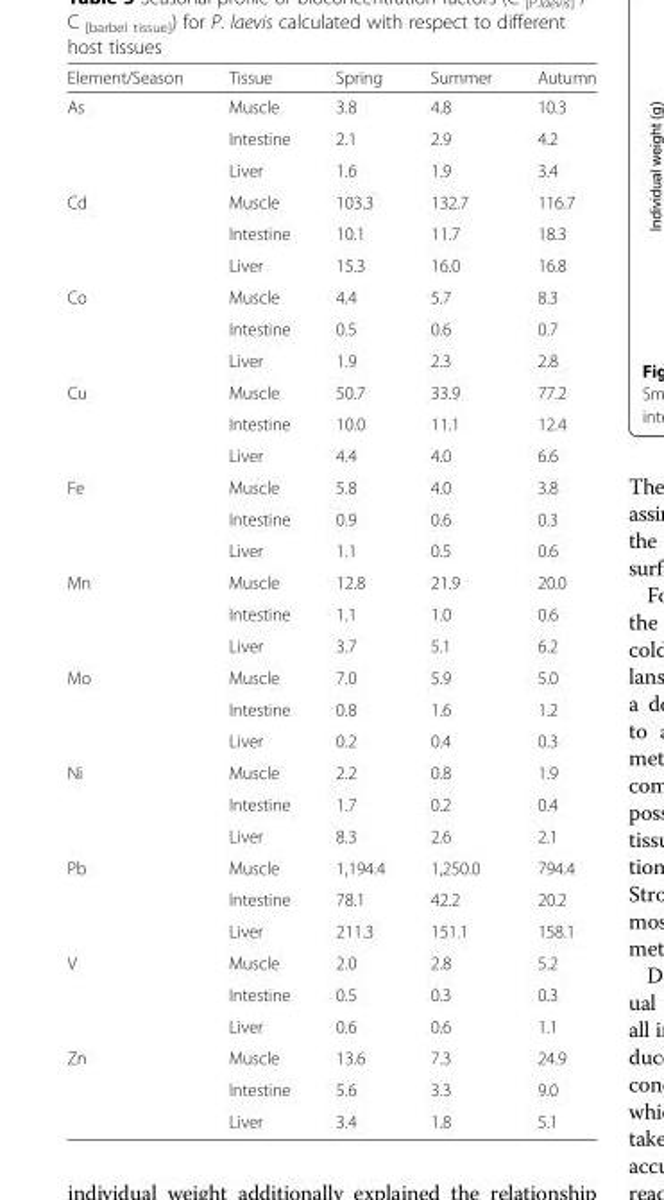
<table><thead><tr><td>Element/Season</td><td>Tissue</td><td>Spring</td><td>Summer</td><td>Autumn</td></tr></thead><tbody><tr><td rowspan="3">As</td><td>Muscle</td><td>3.8</td><td>4.8</td><td>10.3</td></tr><tr><td>Intestine</td><td>2.1</td><td>2.9</td><td>4.2</td></tr><tr><td>Liver</td><td>1.6</td><td>1.9</td><td>3.4</td></tr><tr><td rowspan="3">Cd</td><td>Muscle</td><td>103.3</td><td>132.7</td><td>116.7</td></tr><tr><td>Intestine</td><td>10.1</td><td>11.7</td><td>18.3</td></tr><tr><td>Liver</td><td>15.3</td><td>16.0</td><td>16.8</td></tr><tr><td rowspan="3">Co</td><td>Muscle</td><td>4.4</td><td>5.7</td><td>8.3</td></tr><tr><td>Intestine</td><td>0.5</td><td>0.6</td><td>0.7</td></tr><tr><td>Liver</td><td>1.9</td><td>2.3</td><td>2.8</td></tr><tr><td rowspan="3">Cu</td><td>Muscle</td><td>50.7</td><td>33.9</td><td>77.2</td></tr><tr><td>Intestine</td><td>10.0</td><td>11.1</td><td>12.4</td></tr><tr><td>Liver</td><td>4.4</td><td>4.0</td><td>6.6</td></tr><tr><td rowspan="3">Fe</td><td>Muscle</td><td>5.8</td><td>4.0</td><td>3.8</td></tr><tr><td>Intestine</td><td>0.9</td><td>0.6</td><td>0.3</td></tr><tr><td>Liver</td><td>1.1</td><td>0.5</td><td>0.6</td></tr><tr><td rowspan="3">Mn</td><td>Muscle</td><td>12.8</td><td>21.9</td><td>20.0</td></tr><tr><td>Intestine</td><td>1.1</td><td>1.0</td><td>0.6</td></tr><tr><td>Liver</td><td>3.7</td><td>5.1</td><td>6.2</td></tr><tr><td rowspan="3">Mo</td><td>Muscle</td><td>7.0</td><td>5.9</td><td>5.0</td></tr><tr><td>Intestine</td><td>0.8</td><td>1.6</td><td>1.2</td></tr><tr><td>Liver</td><td>0.2</td><td>0.4</td><td>0.3</td></tr><tr><td rowspan="3">Ni</td><td>Muscle</td><td>2.2</td><td>0.8</td><td>1.9</td></tr><tr><td>Intestine</td><td>1.7</td><td>0.2</td><td>0.4</td></tr><tr><td>Liver</td><td>8.3</td><td>2.6</td><td>2.1</td></tr><tr><td rowspan="3">Pb</td><td>Muscle</td><td>1,194.4</td><td>1,250.0</td><td>794.4</td></tr><tr><td>Intestine</td><td>78.1</td><td>42.2</td><td>20.2</td></tr><tr><td>Liver</td><td>211.3</td><td>151.1</td><td>158.1</td></tr><tr><td rowspan="3">V</td><td>Muscle</td><td>2.0</td><td>2.8</td><td>5.2</td></tr><tr><td>Intestine</td><td>0.5</td><td>0.3</td><td>0.3</td></tr><tr><td>Liver</td><td>0.6</td><td>0.6</td><td>1.1</td></tr><tr><td rowspan="3">Zn</td><td>Muscle</td><td>13.6</td><td>7.3</td><td>24.9</td></tr><tr><td>Intestine</td><td>5.6</td><td>3.3</td><td>9.0</td></tr><tr><td>Liver</td><td>3.4</td><td>1.8</td><td>5.1</td></tr></tbody></table>